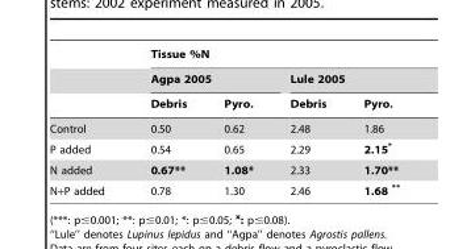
<table><thead><tr><td rowspan="3"></td><td colspan="4">Tissue %N</td></tr><tr><td colspan="2">Agpa 2005</td><td colspan="2">Lule 2005</td></tr><tr><td>Debris</td><td>Pyro.</td><td>Debris</td><td>Pyro.</td></tr></thead><tbody><tr><td>Control</td><td>0.50</td><td>0.62</td><td>2.48</td><td>1.86</td></tr><tr><td>P added</td><td>0.54</td><td>0.65</td><td>2.29</td><td>2.15*</td></tr><tr><td>N added</td><td>0.67**</td><td>1.08*</td><td>2.33</td><td>1.70**</td></tr><tr><td>N+P added</td><td>0.78</td><td>1.30</td><td>2.46</td><td>1.68 **</td></tr></tbody></table>